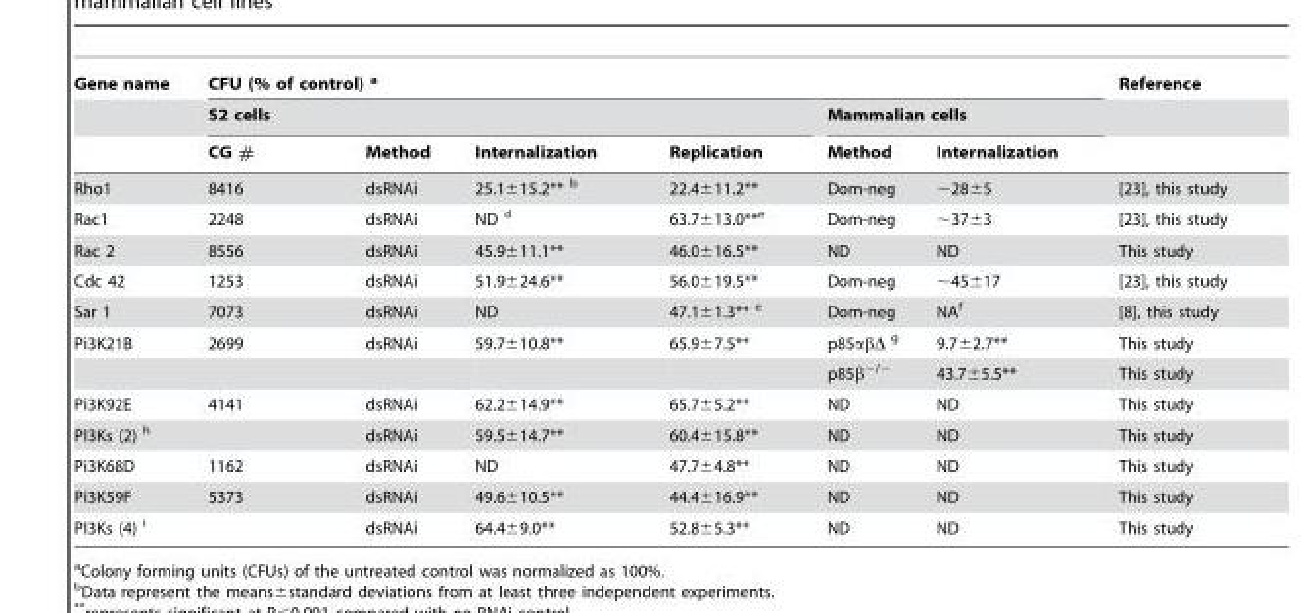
<table><thead><tr><td rowspan="3">Gene name</td><td colspan="6">CFU (% of control) a</td><td rowspan="3">Reference</td></tr><tr><td colspan="4">S2 cells</td><td colspan="2">Mammalian cells</td></tr><tr><td>CG #</td><td>Method</td><td>Internalization</td><td>Replication</td><td>Method</td><td>Internalization</td></tr></thead><tbody><tr><td>Rho1</td><td>8416</td><td>dsRNAi</td><td>25.1±15.2** b</td><td>22.4±11.2**</td><td>Dom-neg</td><td>∼28±5</td><td>[23], this study</td></tr><tr><td>Rac1</td><td>2248</td><td>dsRNAi</td><td>ND d</td><td>63.7±13.0**e</td><td>Dom-neg</td><td>∼37±3</td><td>[23], this study</td></tr><tr><td>Rac 2</td><td>8556</td><td>dsRNAi</td><td>45.9±11.1**</td><td>46.0±16.5**</td><td>ND</td><td>ND</td><td>This study</td></tr><tr><td>Cdc 42</td><td>1253</td><td>dsRNAi</td><td>51.9±24.6**</td><td>56.0±19.5**</td><td>Dom-neg</td><td>∼45±17</td><td>[23], this study</td></tr><tr><td>Sar 1</td><td>7073</td><td>dsRNAi</td><td>ND</td><td>47.1±1.3** e</td><td>Dom-neg</td><td>NA<sup>f</sup></td><td>[8], this study</td></tr><tr><td rowspan="2">Pi3K21B</td><td>2699</td><td>dsRNAi</td><td>59.7±10.8**</td><td>65.9±7.5**</td><td>p85αβΔ g</td><td>9.7±2.7**</td><td>This study</td></tr><tr><td></td><td></td><td></td><td></td><td>p85β<sup>−/−</sup></td><td>43.7±5.5**</td><td>This study</td></tr><tr><td>Pi3K92E</td><td>4141</td><td>dsRNAi</td><td>62.2±14.9**</td><td>65.7±5.2**</td><td>ND</td><td>ND</td><td>This study</td></tr><tr><td>PI3Ks (2) h</td><td></td><td>dsRNAi</td><td>59.5±14.7**</td><td>60.4±15.8**</td><td>ND</td><td>ND</td><td>This study</td></tr><tr><td>Pi3K68D</td><td>1162</td><td>dsRNAi</td><td>ND</td><td>47.7±4.8**</td><td>ND</td><td>ND</td><td>This study</td></tr><tr><td>Pi3K59F</td><td>5373</td><td>dsRNAi</td><td>49.6±10.5**</td><td>44.4±16.9**</td><td>ND</td><td>ND</td><td>This study</td></tr><tr><td>PI3Ks (4) i</td><td></td><td>dsRNAi</td><td>64.4±9.0**</td><td>52.8±5.3**</td><td>ND</td><td>ND</td><td>This study</td></tr></tbody></table>